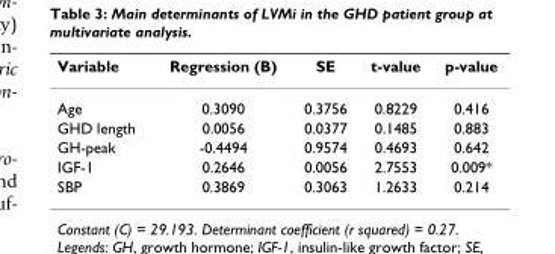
<table><thead><tr><td>Variable</td><td>Regression (B)</td><td>SE</td><td>t-value</td><td>p-value</td></tr></thead><tbody><tr><td>Age</td><td>0.3090</td><td>0.3756</td><td>0.8229</td><td>0.416</td></tr><tr><td>GHD length</td><td>0.0056</td><td>0.0377</td><td>0.1485</td><td>0.883</td></tr><tr><td>GH-peak</td><td>-0.4494</td><td>0.9574</td><td>0.4693</td><td>0.642</td></tr><tr><td>IGF-1</td><td>0.2646</td><td>0.0056</td><td>2.7553</td><td>0.009*</td></tr><tr><td>SBP</td><td>0.3869</td><td>0.3063</td><td>1.2633</td><td>0.214</td></tr></tbody></table>